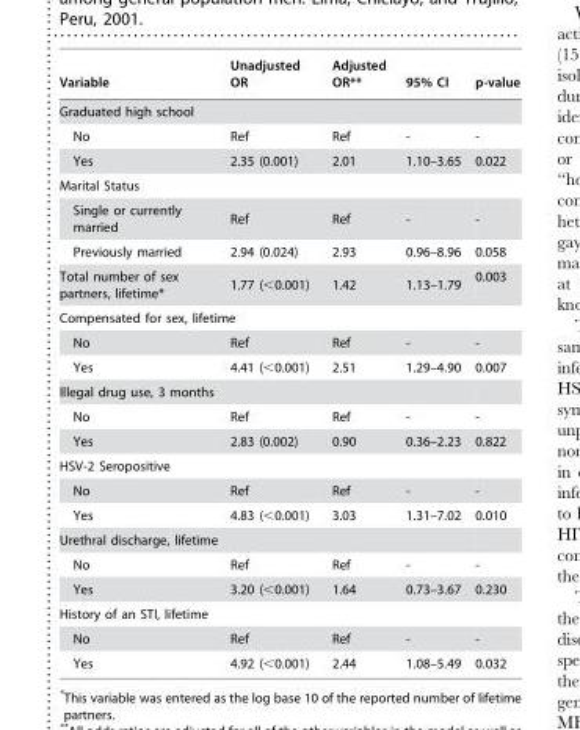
<table><thead><tr><td>Variable</td><td>Unadjusted OR</td><td>Adjusted OR**</td><td>95% CI</td><td>p-value</td></tr></thead><tbody><tr><td colspan="5">Graduated high school</td></tr><tr><td>No</td><td>Ref</td><td>Ref</td><td>-</td><td>-</td></tr><tr><td>Yes</td><td>2.35 (0.001)</td><td>2.01</td><td>1.10–3.65</td><td>0.022</td></tr><tr><td colspan="5">Marital Status</td></tr><tr><td>Single or currently married</td><td>Ref</td><td>Ref</td><td>-</td><td>-</td></tr><tr><td>Previously married</td><td>2.94 (0.024)</td><td>2.93</td><td>0.96–8.96</td><td>0.058</td></tr><tr><td>Total number of sex partners, lifetime*</td><td>1.77 (&lt;0.001)</td><td>1.42</td><td>1.13–1.79</td><td>0.003</td></tr><tr><td colspan="5">Compensated for sex, lifetime</td></tr><tr><td>No</td><td>Ref</td><td>Ref</td><td>-</td><td>-</td></tr><tr><td>Yes</td><td>4.41 (&lt;0.001)</td><td>2.51</td><td>1.29–4.90</td><td>0.007</td></tr><tr><td colspan="5">Illegal drug use, 3 months</td></tr><tr><td>No</td><td>Ref</td><td>Ref</td><td>-</td><td>-</td></tr><tr><td>Yes</td><td>2.83 (0.002)</td><td>0.90</td><td>0.36–2.23</td><td>0.822</td></tr><tr><td colspan="5">HSV-2 Seropositive</td></tr><tr><td>No</td><td>Ref</td><td>Ref</td><td>-</td><td>-</td></tr><tr><td>Yes</td><td>4.83 (&lt;0.001)</td><td>3.03</td><td>1.31–7.02</td><td>0.010</td></tr><tr><td colspan="5">Urethral discharge, lifetime</td></tr><tr><td>No</td><td>Ref</td><td>Ref</td><td>-</td><td>-</td></tr><tr><td>Yes</td><td>3.20 (&lt;0.001)</td><td>1.64</td><td>0.73–3.67</td><td>0.230</td></tr><tr><td colspan="5">History of an STI, lifetime</td></tr><tr><td>No</td><td>Ref</td><td>Ref</td><td>-</td><td>-</td></tr><tr><td>Yes</td><td>4.92 (&lt;0.001)</td><td>2.44</td><td>1.08–5.49</td><td>0.032</td></tr></tbody></table>